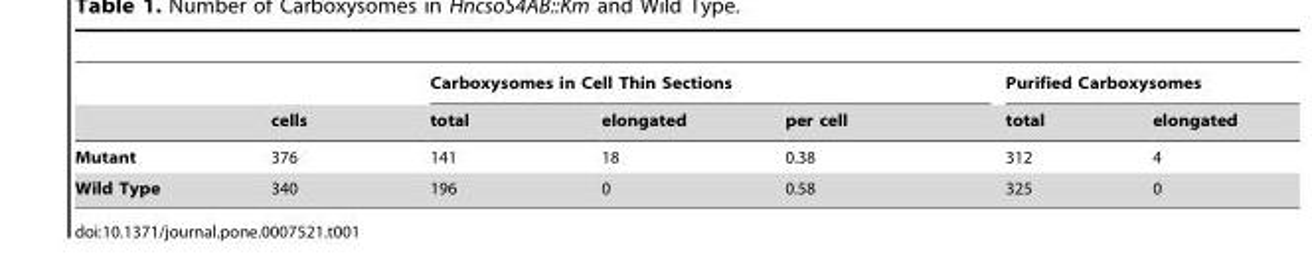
<table><thead><tr><td rowspan="2"></td><td rowspan="2">cells</td><td colspan="3">Carboxysomes in Cell Thin Sections</td><td colspan="2">Purified Carboxysomes</td></tr><tr><td>total</td><td>elongated</td><td>per cell</td><td>total</td><td>elongated</td></tr></thead><tbody><tr><td>Mutant</td><td>376</td><td>141</td><td>18</td><td>0.38</td><td>312</td><td>4</td></tr><tr><td>Wild Type</td><td>340</td><td>196</td><td>0</td><td>0.58</td><td>325</td><td>0</td></tr></tbody></table>